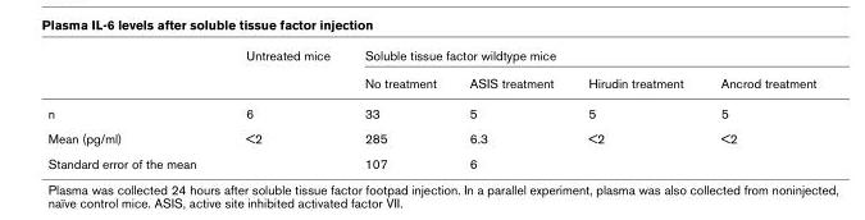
<table><thead><tr><td rowspan="2"></td><td rowspan="2">Untreated mice</td><td colspan="4">Soluble tissue factor wildtype mice</td></tr><tr><td>No treatment</td><td>ASIS treatment</td><td>Hirudin treatment</td><td>Ancrod treatment</td></tr></thead><tbody><tr><td>n</td><td>6</td><td>33</td><td>5</td><td>5</td><td>5</td></tr><tr><td>Mean (pg/ml)</td><td>&lt;2</td><td>285</td><td>6.3</td><td>&lt;2</td><td>&lt;2</td></tr><tr><td>Standard error of the mean</td><td></td><td>107</td><td>6</td><td></td><td></td></tr></tbody></table>